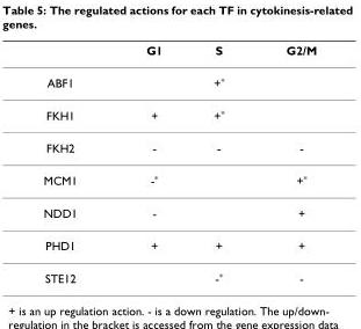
<table><thead><tr><td></td><td>G1</td><td>S</td><td>G2/M</td></tr></thead><tbody><tr><td>ABF1</td><td></td><td>+*</td><td></td></tr><tr><td>FKH1</td><td>+</td><td>+*</td><td></td></tr><tr><td>FKH2</td><td>-</td><td>-</td><td>-</td></tr><tr><td>MCM1</td><td>-*</td><td></td><td>+*</td></tr><tr><td>NDD1</td><td>-</td><td></td><td>+</td></tr><tr><td>PHD1</td><td>+</td><td>+</td><td>+</td></tr><tr><td>STE12</td><td></td><td>-*</td><td>-</td></tr></tbody></table>